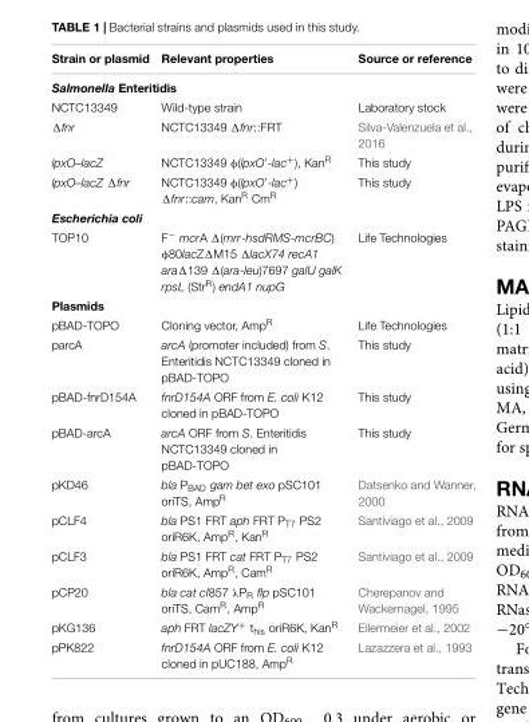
<table><thead><tr><td>Strain or plasmid</td><td>Relevant properties</td><td>Source or reference</td></tr></thead><tbody><tr><td colspan="3">Salmonella Enteritidis</td></tr><tr><td>NCTC13349</td><td>Wild-type strain</td><td>Laboratory stock</td></tr><tr><td>Δfnr</td><td>NCTC13349 Δfnr::FRT</td><td>Silva-Valenzuela et al., 2016</td></tr><tr><td>lpxO–lacZ</td><td>NCTC13349 φ(lpxO’-lac<sup>+</sup>), Kan<sup>R</sup></td><td>This study</td></tr><tr><td>lpxO–lacZ Δfnr</td><td>NCTC13349 φ(lpxO’-lac<sup>+</sup>) Δfnr::cam, Kan<sup>R</sup> Cm<sup>R</sup></td><td>This study</td></tr><tr><td colspan="3">Escherichia coli</td></tr><tr><td>TOP10</td><td>F<sup>−</sup> mcrA Δ(mrr-hsdRMS-mcrBC) φ80lacZΔM15 ΔlacX74 recA1 araΔ139 Δ(ara-leu)7697 galU galK rpsL (Str<sup>R</sup>) endA1 nupG</td><td>Life Technologies</td></tr><tr><td colspan="3">Plasmids</td></tr><tr><td>pBAD-TOPO</td><td>Cloning vector, Amp<sup>R</sup></td><td>Life Technologies</td></tr><tr><td>parcA</td><td>arcA (promoter included) from S. Enteritidis NCTC13349 cloned in pBAD-TOPO</td><td>This study</td></tr><tr><td>pBAD-fnrD154A</td><td>fnrD154A ORF from E. coli K12 cloned in pBAD-TOPO</td><td>This study</td></tr><tr><td>pBAD-arcA</td><td>arcA ORF from S. Enteritidis NCTC13349 cloned in pBAD-TOPO</td><td>This study</td></tr><tr><td>pKD46</td><td>bla P<sub>BAD</sub> gam bet exo pSC101 oriTS, Amp<sup>R</sup></td><td>Datsenko and Wanner, 2000</td></tr><tr><td>pCLF4</td><td>bla PS1 FRT aph FRT P<sub>T7</sub> PS2 oriR6K, Amp<sup>R</sup>, Kan<sup>R</sup></td><td>Santiviago et al., 2009</td></tr><tr><td>pCLF3</td><td>bla PS1 FRT cat FRT P<sub>T7</sub> PS2 oriR6K, Amp<sup>R</sup>, Cam<sup>R</sup></td><td>Santiviago et al., 2009</td></tr><tr><td>pCP20</td><td>bla cat cI857 λP<sub>R</sub> flp pSC101 oriTS, Cam<sup>R</sup>, Amp<sup>R</sup></td><td>Cherepanov and Wackernagel, 1995</td></tr><tr><td>pKG136</td><td>aph FRT lacZY<sup>+</sup> t<sub>his</sub> oriR6K, Kan<sup>R</sup></td><td>Ellermeier et al., 2002</td></tr><tr><td>pPK822</td><td>fnrD154A ORF from E. coli K12 cloned in pUC188, Amp<sup>R</sup></td><td>Lazazzera et al., 1993</td></tr></tbody></table>